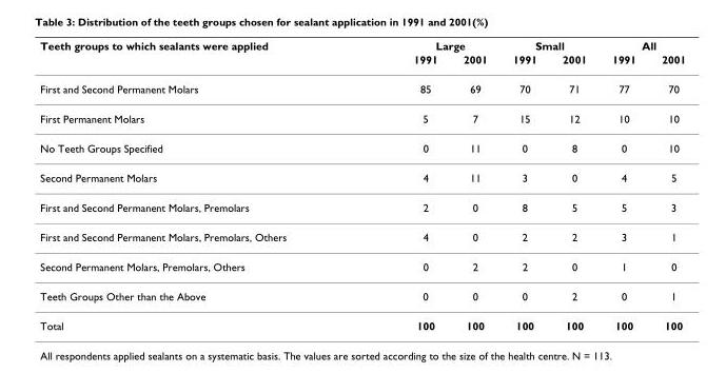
<table><thead><tr><td rowspan="2">Teeth groups to which sealants were applied</td><td colspan="2">Large</td><td colspan="2">Small</td><td colspan="2">All</td></tr><tr><td>1991</td><td>2001</td><td>1991</td><td>2001</td><td>1991</td><td>2001</td></tr></thead><tbody><tr><td>First and Second Permanent Molars</td><td>85</td><td>69</td><td>70</td><td>71</td><td>77</td><td>70</td></tr><tr><td>First Permanent Molars</td><td>5</td><td>7</td><td>15</td><td>12</td><td>10</td><td>10</td></tr><tr><td>No Teeth Groups Specified</td><td>0</td><td>11</td><td>0</td><td>8</td><td>0</td><td>10</td></tr><tr><td>Second Permanent Molars</td><td>4</td><td>11</td><td>3</td><td>0</td><td>4</td><td>5</td></tr><tr><td>First and Second Permanent Molars, Premolars</td><td>2</td><td>0</td><td>8</td><td>5</td><td>5</td><td>3</td></tr><tr><td>First and Second Permanent Molars, Premolars, Others</td><td>4</td><td>0</td><td>2</td><td>2</td><td>3</td><td>1</td></tr><tr><td>Second Permanent Molars, Premolars, Others</td><td>0</td><td>2</td><td>2</td><td>0</td><td>1</td><td>0</td></tr><tr><td>Teeth Groups Other than the Above</td><td>0</td><td>0</td><td>0</td><td>2</td><td>0</td><td>1</td></tr><tr><td>Total</td><td>100</td><td>100</td><td>100</td><td>100</td><td>100</td><td>100</td></tr></tbody></table>